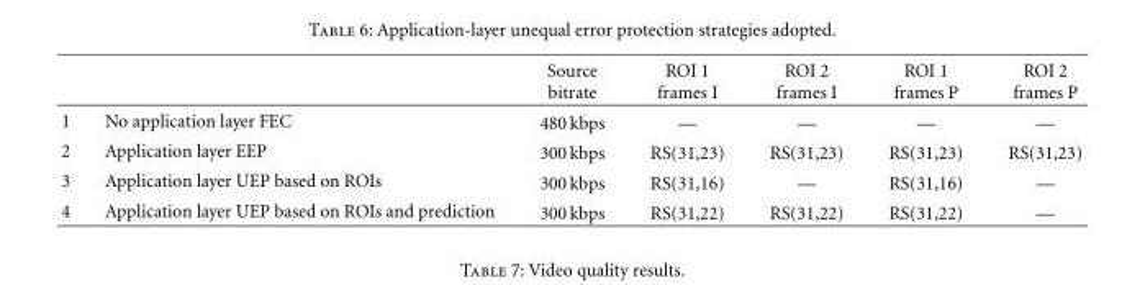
<table><thead><tr><td></td><td></td><td>Source bitrate</td><td>ROI 1 frames I</td><td>ROI 2 frames I</td><td>ROI 1 frames P</td><td>ROI 2 frames P</td></tr></thead><tbody><tr><td>1</td><td>No application layer FEC</td><td>480 kbps</td><td>—</td><td>—</td><td>—</td><td>—</td></tr><tr><td>2</td><td>Application layer EEP</td><td>300 kbps</td><td>RS(31,23)</td><td>RS(31,23)</td><td>RS(31,23)</td><td>RS(31,23)</td></tr><tr><td>3</td><td>Application layer UEP based on ROIs</td><td>300 kbps</td><td>RS(31,16)</td><td>—</td><td>RS(31,16)</td><td>—</td></tr><tr><td>4</td><td>Application layer UEP based on ROIs and prediction</td><td>300 kbps</td><td>RS(31,22)</td><td>RS(31,22)</td><td>RS(31,22)</td><td>—</td></tr></tbody></table>